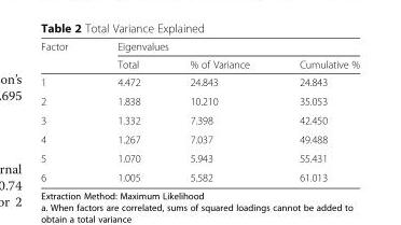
<table><thead><tr><td rowspan="2">Factor</td><td colspan="3">Eigenvalues</td></tr><tr><td>Total</td><td>% of Variance</td><td>Cumulative %</td></tr></thead><tbody><tr><td>1</td><td>4.472</td><td>24.843</td><td>24.843</td></tr><tr><td>2</td><td>1.838</td><td>10.210</td><td>35.053</td></tr><tr><td>3</td><td>1.332</td><td>7.398</td><td>42.450</td></tr><tr><td>4</td><td>1.267</td><td>7.037</td><td>49.488</td></tr><tr><td>5</td><td>1.070</td><td>5.943</td><td>55.431</td></tr><tr><td>6</td><td>1.005</td><td>5.582</td><td>61.013</td></tr></tbody></table>